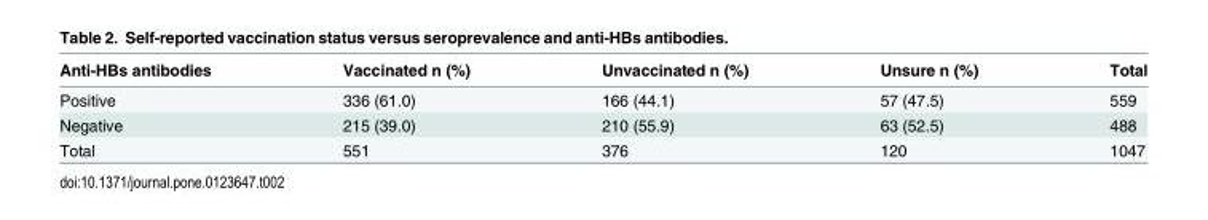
<table><thead><tr><td>Anti-HBs antibodies</td><td>Vaccinated n (%)</td><td>Unvaccinated n (%)</td><td>Unsure n (%)</td><td>Total</td></tr></thead><tbody><tr><td>Positive</td><td>336 (61.0)</td><td>166 (44.1)</td><td>57 (47.5)</td><td>559</td></tr><tr><td>Negative</td><td>215 (39.0)</td><td>210 (55.9)</td><td>63 (52.5)</td><td>488</td></tr><tr><td>Total</td><td>551</td><td>376</td><td>120</td><td>1047</td></tr></tbody></table>